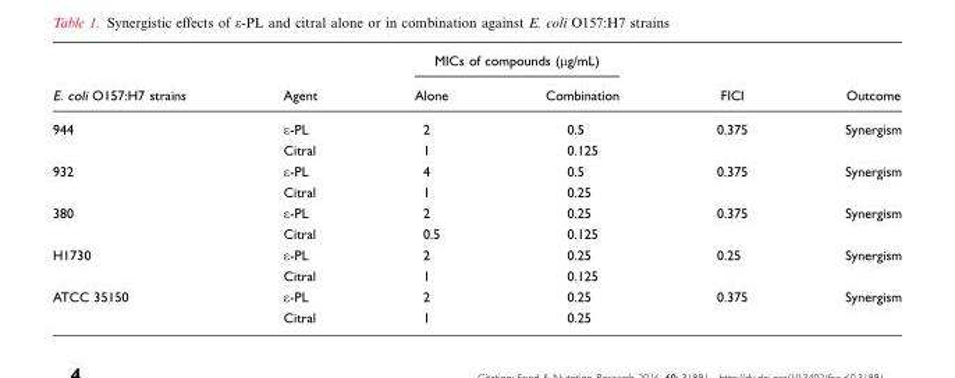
<table><thead><tr><td rowspan="2">E. coli O157:H7 strains</td><td rowspan="2">Agent</td><td colspan="2">MICs of compounds (µg/mL)</td><td rowspan="2">FICI</td><td rowspan="2">Outcome</td></tr><tr><td>Alone</td><td>Combination</td></tr></thead><tbody><tr><td rowspan="2">944</td><td>ε-PL</td><td>2</td><td>0.5</td><td>0.375</td><td>Synergism</td></tr><tr><td>Citral</td><td>1</td><td>0.125</td><td></td><td></td></tr><tr><td rowspan="2">932</td><td>ε-PL</td><td>4</td><td>0.5</td><td>0.375</td><td>Synergism</td></tr><tr><td>Citral</td><td>1</td><td>0.25</td><td></td><td></td></tr><tr><td rowspan="2">380</td><td>ε-PL</td><td>2</td><td>0.25</td><td>0.375</td><td>Synergism</td></tr><tr><td>Citral</td><td>0.5</td><td>0.125</td><td></td><td></td></tr><tr><td rowspan="2">H1730</td><td>ε-PL</td><td>2</td><td>0.25</td><td>0.25</td><td>Synergism</td></tr><tr><td>Citral</td><td>1</td><td>0.125</td><td></td><td></td></tr><tr><td rowspan="2">ATCC 35150</td><td>ε-PL</td><td>2</td><td>0.25</td><td>0.375</td><td>Synergism</td></tr><tr><td>Citral</td><td>1</td><td>0.25</td><td></td><td></td></tr></tbody></table>